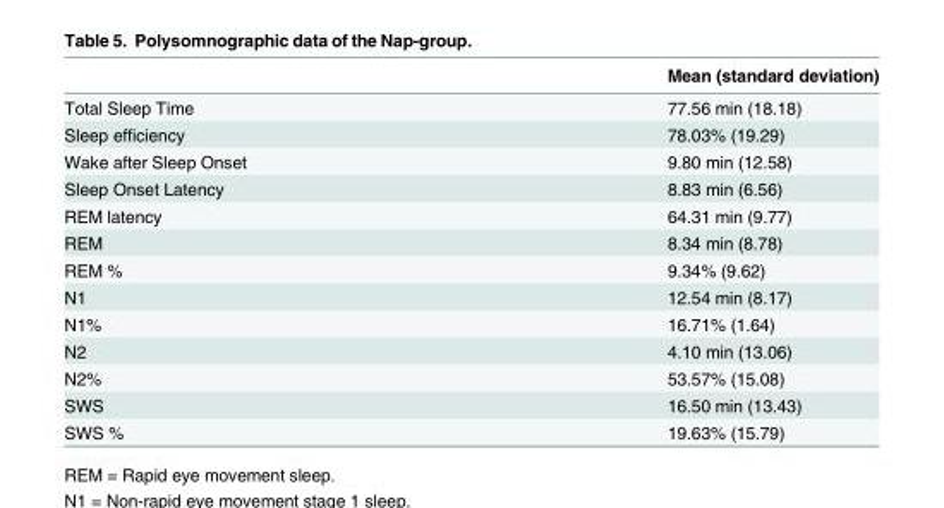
<table><thead><tr><td></td><td>Mean (standard deviation)</td></tr></thead><tbody><tr><td>Total Sleep Time</td><td>77.56 min (18.18)</td></tr><tr><td>Sleep efficiency</td><td>78.03% (19.29)</td></tr><tr><td>Wake after Sleep Onset</td><td>9.80 min (12.58)</td></tr><tr><td>Sleep Onset Latency</td><td>8.83 min (6.56)</td></tr><tr><td>REM latency</td><td>64.31 min (9.77)</td></tr><tr><td>REM</td><td>8.34 min (8.78)</td></tr><tr><td>REM %</td><td>9.34% (9.62)</td></tr><tr><td>N1</td><td>12.54 min (8.17)</td></tr><tr><td>N1%</td><td>16.71% (1.64)</td></tr><tr><td>N2</td><td>4.10 min (13.06)</td></tr><tr><td>N2%</td><td>53.57% (15.08)</td></tr><tr><td>SWS</td><td>16.50 min (13.43)</td></tr><tr><td>SWS %</td><td>19.63% (15.79)</td></tr></tbody></table>